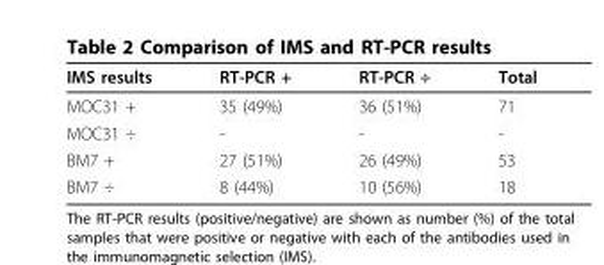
<table><thead><tr><td>IMS results</td><td>RT-PCR +</td><td>RT-PCR ÷</td><td>Total</td></tr></thead><tbody><tr><td>MOC31 +</td><td>35 (49%)</td><td>36 (51%)</td><td>71</td></tr><tr><td>MOC31 ÷</td><td>-</td><td>-</td><td>-</td></tr><tr><td>BM7 +</td><td>27 (51%)</td><td>26 (49%)</td><td>53</td></tr><tr><td>BM7 ÷</td><td>8 (44%)</td><td>10 (56%)</td><td>18</td></tr></tbody></table>